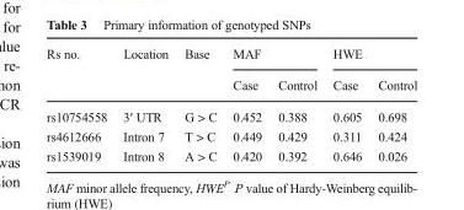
<table><thead><tr><td rowspan="2">Rs no.</td><td rowspan="2">Location</td><td rowspan="2">Base</td><td colspan="2">MAF</td><td colspan="2">HWE</td></tr><tr><td>Case</td><td>Control</td><td>Case</td><td>Control</td></tr></thead><tbody><tr><td>rs10754558</td><td>3′ UTR</td><td>G &gt; C</td><td>0.452</td><td>0.388</td><td>0.605</td><td>0.698</td></tr><tr><td>rs4612666</td><td>Intron 7</td><td>T &gt; C</td><td>0.449</td><td>0.429</td><td>0.311</td><td>0.424</td></tr><tr><td>rs1539019</td><td>Intron 8</td><td>A &gt; C</td><td>0.420</td><td>0.392</td><td>0.646</td><td>0.026</td></tr></tbody></table>